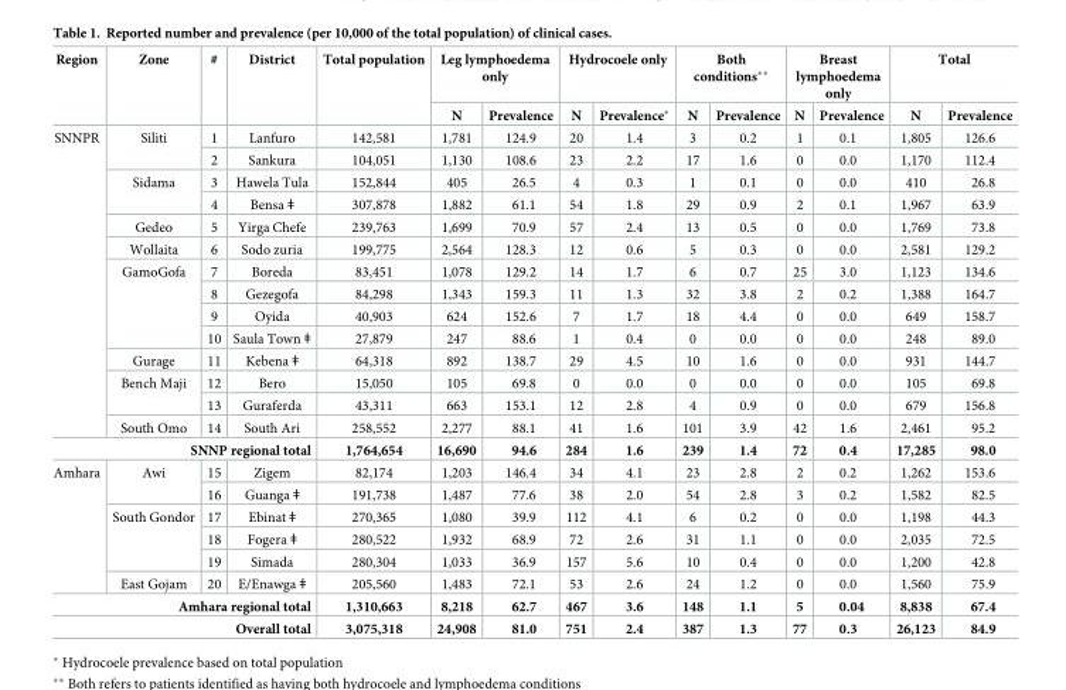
<table><thead><tr><td rowspan="2">Region</td><td rowspan="2">Zone</td><td rowspan="2">#</td><td rowspan="2">District</td><td rowspan="2">Total population</td><td colspan="2">Leg lymphoedema only</td><td colspan="2">Hydrocoele only</td><td colspan="2">Both conditions**</td><td colspan="2">Breast lymphoedema only</td><td colspan="2">Total</td></tr><tr><td>N</td><td>Prevalence</td><td>N</td><td>Prevalence*</td><td>N</td><td>Prevalence</td><td>N</td><td>Prevalence</td><td>N</td><td>Prevalence</td></tr></thead><tbody><tr><td rowspan="14">SNNPR</td><td rowspan="2">Siliti</td><td>1</td><td>Lanfuro</td><td>142,581</td><td>1,781</td><td>124.9</td><td>20</td><td>1.4</td><td>3</td><td>0.2</td><td>1</td><td>0.1</td><td>1,805</td><td>126.6</td></tr><tr><td>2</td><td>Sankura</td><td>104,051</td><td>1,130</td><td>108.6</td><td>23</td><td>2.2</td><td>17</td><td>1.6</td><td>0</td><td>0.0</td><td>1,170</td><td>112.4</td></tr><tr><td rowspan="2">Sidama</td><td>3</td><td>Hawela Tula</td><td>152,844</td><td>405</td><td>26.5</td><td>4</td><td>0.3</td><td>1</td><td>0.1</td><td>0</td><td>0.0</td><td>410</td><td>26.8</td></tr><tr><td>4</td><td>Bensa ǂ</td><td>307,878</td><td>1,882</td><td>61.1</td><td>54</td><td>1.8</td><td>29</td><td>0.9</td><td>2</td><td>0.1</td><td>1,967</td><td>63.9</td></tr><tr><td>Gedeo</td><td>5</td><td>Yirga Chefe</td><td>239,763</td><td>1,699</td><td>70.9</td><td>57</td><td>2.4</td><td>13</td><td>0.5</td><td>0</td><td>0.0</td><td>1,769</td><td>73.8</td></tr><tr><td>Wollaita</td><td>6</td><td>Sodo zuria</td><td>199,775</td><td>2,564</td><td>128.3</td><td>12</td><td>0.6</td><td>5</td><td>0.3</td><td>0</td><td>0.0</td><td>2,581</td><td>129.2</td></tr><tr><td rowspan="4">GamoGofa</td><td>7</td><td>Boreda</td><td>83,451</td><td>1,078</td><td>129.2</td><td>14</td><td>1.7</td><td>6</td><td>0.7</td><td>25</td><td>3.0</td><td>1,123</td><td>134.6</td></tr><tr><td>8</td><td>Gezegofa</td><td>84,298</td><td>1,343</td><td>159.3</td><td>11</td><td>1.3</td><td>32</td><td>3.8</td><td>2</td><td>0.2</td><td>1,388</td><td>164.7</td></tr><tr><td>9</td><td>Oyida</td><td>40,903</td><td>624</td><td>152.6</td><td>7</td><td>1.7</td><td>18</td><td>4.4</td><td>0</td><td>0.0</td><td>649</td><td>158.7</td></tr><tr><td>10</td><td>Saula Town ǂ</td><td>27,879</td><td>247</td><td>88.6</td><td>1</td><td>0.4</td><td>0</td><td>0.0</td><td>0</td><td>0.0</td><td>248</td><td>89.0</td></tr><tr><td>Gurage</td><td>11</td><td>Kebena ǂ</td><td>64,318</td><td>892</td><td>138.7</td><td>29</td><td>4.5</td><td>10</td><td>1.6</td><td>0</td><td>0.0</td><td>931</td><td>144.7</td></tr><tr><td rowspan="2">Bench Maji</td><td>12</td><td>Bero</td><td>15,050</td><td>105</td><td>69.8</td><td>0</td><td>0.0</td><td>0</td><td>0.0</td><td>0</td><td>0.0</td><td>105</td><td>69.8</td></tr><tr><td>13</td><td>Guraferda</td><td>43,311</td><td>663</td><td>153.1</td><td>12</td><td>2.8</td><td>4</td><td>0.9</td><td>0</td><td>0.0</td><td>679</td><td>156.8</td></tr><tr><td>South Omo</td><td>14</td><td>South Ari</td><td>258,552</td><td>2,277</td><td>88.1</td><td>41</td><td>1.6</td><td>101</td><td>3.9</td><td>42</td><td>1.6</td><td>2,461</td><td>95.2</td></tr><tr><td colspan="4">SNNP regional total</td><td>1,764,654</td><td>16,690</td><td>94.6</td><td>284</td><td>1.6</td><td>239</td><td>1.4</td><td>72</td><td>0.4</td><td>17,285</td><td>98.0</td></tr><tr><td rowspan="6">Amhara</td><td rowspan="2">Awi</td><td>15</td><td>Zigem</td><td>82,174</td><td>1,203</td><td>146.4</td><td>34</td><td>4.1</td><td>23</td><td>2.8</td><td>2</td><td>0.2</td><td>1,262</td><td>153.6</td></tr><tr><td>16</td><td>Guanga ǂ</td><td>191,738</td><td>1,487</td><td>77.6</td><td>38</td><td>2.0</td><td>54</td><td>2.8</td><td>3</td><td>0.2</td><td>1,582</td><td>82.5</td></tr><tr><td rowspan="3">South Gondor</td><td>17</td><td>Ebinat ǂ</td><td>270,365</td><td>1,080</td><td>39.9</td><td>112</td><td>4.1</td><td>6</td><td>0.2</td><td>0</td><td>0.0</td><td>1,198</td><td>44.3</td></tr><tr><td>18</td><td>Fogera ǂ</td><td>280,522</td><td>1,932</td><td>68.9</td><td>72</td><td>2.6</td><td>31</td><td>1.1</td><td>0</td><td>0.0</td><td>2,035</td><td>72.5</td></tr><tr><td>19</td><td>Simada</td><td>280,304</td><td>1,033</td><td>36.9</td><td>157</td><td>5.6</td><td>10</td><td>0.4</td><td>0</td><td>0.0</td><td>1,200</td><td>42.8</td></tr><tr><td>East Gojam</td><td>20</td><td>E/Enawga ǂ</td><td>205,560</td><td>1,483</td><td>72.1</td><td>53</td><td>2.6</td><td>24</td><td>1.2</td><td>0</td><td>0.0</td><td>1,560</td><td>75.9</td></tr><tr><td colspan="4">Amhara regional total</td><td>1,310,663</td><td>8,218</td><td>62.7</td><td>467</td><td>3.6</td><td>148</td><td>1.1</td><td>5</td><td>0.04</td><td>8,838</td><td>67.4</td></tr><tr><td colspan="4">Overall total</td><td>3,075,318</td><td>24,908</td><td>81.0</td><td>751</td><td>2.4</td><td>387</td><td>1.3</td><td>77</td><td>0.3</td><td>26,123</td><td>84.9</td></tr></tbody></table>